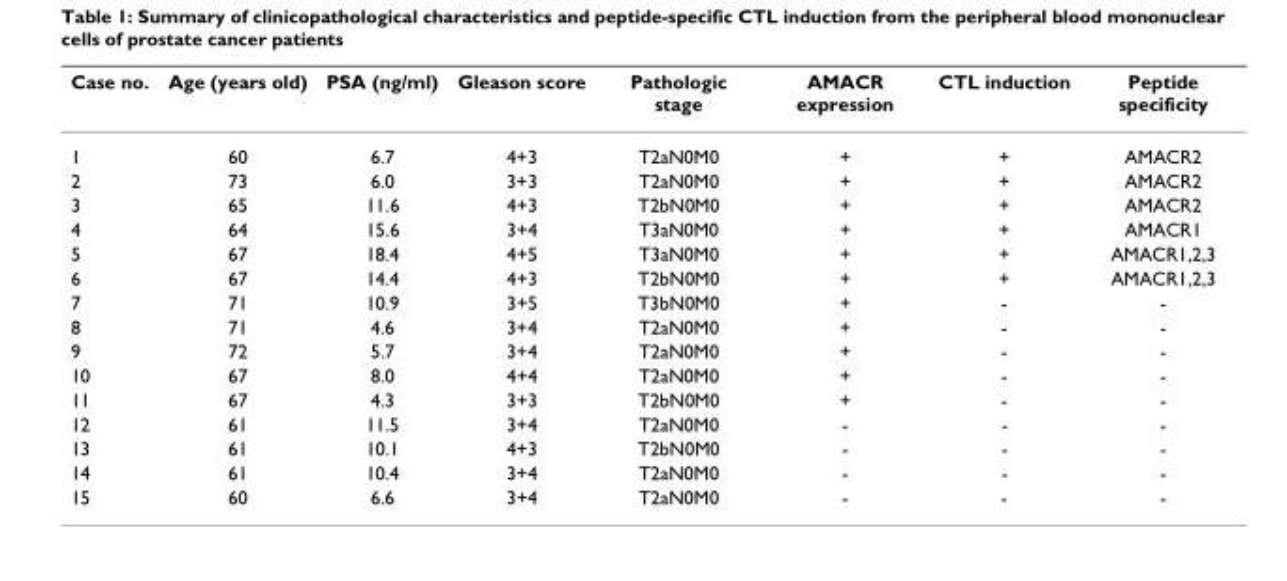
<table><thead><tr><td>Case no.</td><td>Age (years old)</td><td>PSA (ng/ml)</td><td>Gleason score</td><td>Pathologic stage</td><td>AMACR expression</td><td>CTL induction</td><td>Peptide specificity</td></tr></thead><tbody><tr><td>1</td><td>60</td><td>6.7</td><td>4+3</td><td>T2aN0M0</td><td>+</td><td>+</td><td>AMACR2</td></tr><tr><td>2</td><td>73</td><td>6.0</td><td>3+3</td><td>T2aN0M0</td><td>+</td><td>+</td><td>AMACR2</td></tr><tr><td>3</td><td>65</td><td>11.6</td><td>4+3</td><td>T2bN0M0</td><td>+</td><td>+</td><td>AMACR2</td></tr><tr><td>4</td><td>64</td><td>15.6</td><td>3+4</td><td>T3aN0M0</td><td>+</td><td>+</td><td>AMACR1</td></tr><tr><td>5</td><td>67</td><td>18.4</td><td>4+5</td><td>T3aN0M0</td><td>+</td><td>+</td><td>AMACR1,2,3</td></tr><tr><td>6</td><td>67</td><td>14.4</td><td>4+3</td><td>T2bN0M0</td><td>+</td><td>+</td><td>AMACR1,2,3</td></tr><tr><td>7</td><td>71</td><td>10.9</td><td>3+5</td><td>T3bN0M0</td><td>+</td><td>-</td><td>-</td></tr><tr><td>8</td><td>71</td><td>4.6</td><td>3+4</td><td>T2aN0M0</td><td>+</td><td>-</td><td>-</td></tr><tr><td>9</td><td>72</td><td>5.7</td><td>3+4</td><td>T2aN0M0</td><td>+</td><td>-</td><td>-</td></tr><tr><td>10</td><td>67</td><td>8.0</td><td>4+4</td><td>T2aN0M0</td><td>+</td><td>-</td><td>-</td></tr><tr><td>11</td><td>67</td><td>4.3</td><td>3+3</td><td>T2bN0M0</td><td>+</td><td>-</td><td>-</td></tr><tr><td>12</td><td>61</td><td>11.5</td><td>3+4</td><td>T2aN0M0</td><td>-</td><td>-</td><td>-</td></tr><tr><td>13</td><td>61</td><td>10.1</td><td>4+3</td><td>T2bN0M0</td><td>-</td><td>-</td><td>-</td></tr><tr><td>14</td><td>61</td><td>10.4</td><td>3+4</td><td>T2aN0M0</td><td>-</td><td>-</td><td>-</td></tr><tr><td>15</td><td>60</td><td>6.6</td><td>3+4</td><td>T2aN0M0</td><td>-</td><td>-</td><td>-</td></tr></tbody></table>